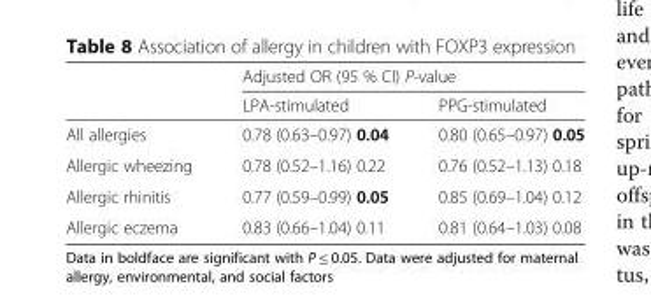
<table><thead><tr><td rowspan="2"></td><td colspan="2">Adjusted OR (95 % CI) P-value</td></tr><tr><td>LPA-stimulated</td><td>PPG-stimulated</td></tr></thead><tbody><tr><td>All allergies</td><td>0.78 (0.63–0.97) 0.04</td><td>0.80 (0.65–0.97) 0.05</td></tr><tr><td>Allergic wheezing</td><td>0.78 (0.52–1.16) 0.22</td><td>0.76 (0.52–1.13) 0.18</td></tr><tr><td>Allergic rhinitis</td><td>0.77 (0.59–0.99) 0.05</td><td>0.85 (0.69–1.04) 0.12</td></tr><tr><td>Allergic eczema</td><td>0.83 (0.66–1.04) 0.11</td><td>0.81 (0.64–1.03) 0.08</td></tr></tbody></table>